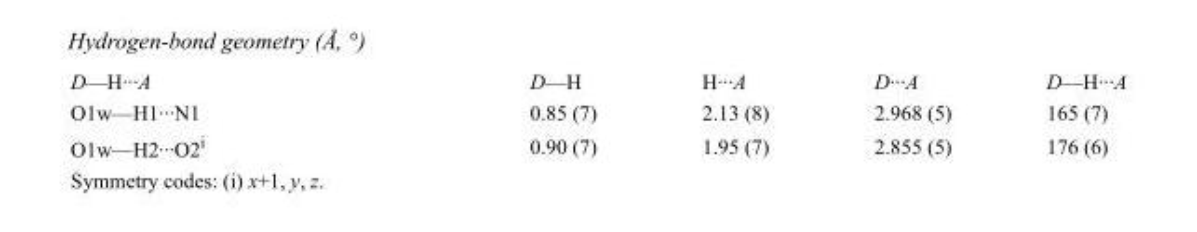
<table><tbody><tr><td>D—H···A</td><td>D—H</td><td>H···A</td><td>D···A</td><td>D—H···A</td></tr><tr><td>O1w—H1···N1</td><td>0.85 (7)</td><td>2.13 (8)</td><td>2.968 (5)</td><td>165 (7)</td></tr><tr><td>O1w—H2···O2<sup>i</sup></td><td>0.90 (7)</td><td>1.95 (7)</td><td>2.855 (5)</td><td>176 (6)</td></tr></tbody></table>